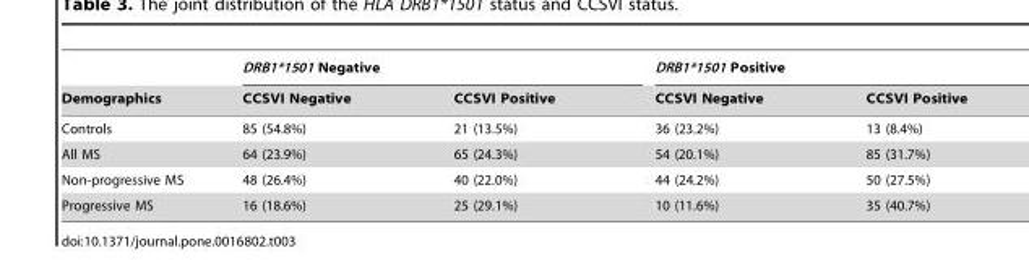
<table><thead><tr><td rowspan="2">Demographics</td><td colspan="2">DRB1*1501 Negative</td><td colspan="2">DRB1*1501 Positive</td></tr><tr><td>CCSVI Negative</td><td>CCSVI Positive</td><td>CCSVI Negative</td><td>CCSVI Positive</td></tr></thead><tbody><tr><td>Controls</td><td>85 (54.8%)</td><td>21 (13.5%)</td><td>36 (23.2%)</td><td>13 (8.4%)</td></tr><tr><td>All MS</td><td>64 (23.9%)</td><td>65 (24.3%)</td><td>54 (20.1%)</td><td>85 (31.7%)</td></tr><tr><td>Non-progressive MS</td><td>48 (26.4%)</td><td>40 (22.0%)</td><td>44 (24.2%)</td><td>50 (27.5%)</td></tr><tr><td>Progressive MS</td><td>16 (18.6%)</td><td>25 (29.1%)</td><td>10 (11.6%)</td><td>35 (40.7%)</td></tr></tbody></table>